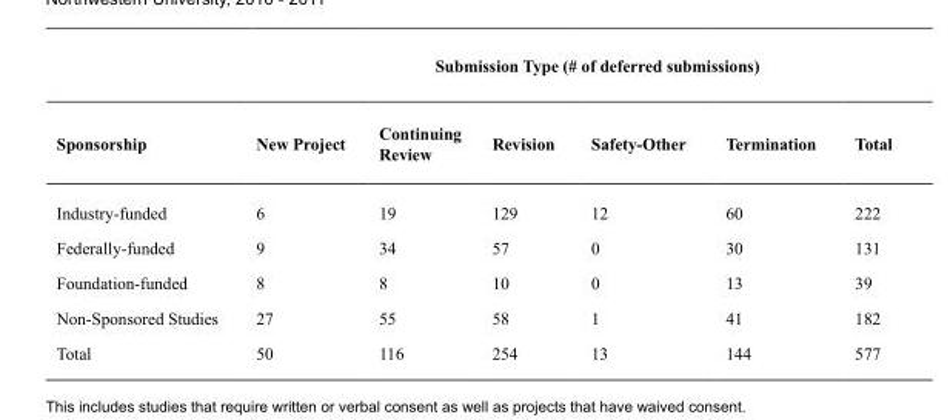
<table><thead><tr><td rowspan="2">Sponsorship</td><td colspan="6">Submission Type (# of deferred submissions)</td></tr><tr><td>New Project</td><td>Continuing Review</td><td>Revision</td><td>Safety-Other</td><td>Termination</td><td>Total</td></tr></thead><tbody><tr><td>Industry-funded</td><td>6</td><td>19</td><td>129</td><td>12</td><td>60</td><td>222</td></tr><tr><td>Federally-funded</td><td>9</td><td>34</td><td>57</td><td>0</td><td>30</td><td>131</td></tr><tr><td>Foundation-funded</td><td>8</td><td>8</td><td>10</td><td>0</td><td>13</td><td>39</td></tr><tr><td>Non-Sponsored Studies</td><td>27</td><td>55</td><td>58</td><td>1</td><td>41</td><td>182</td></tr><tr><td>Total</td><td>50</td><td>116</td><td>254</td><td>13</td><td>144</td><td>577</td></tr></tbody></table>